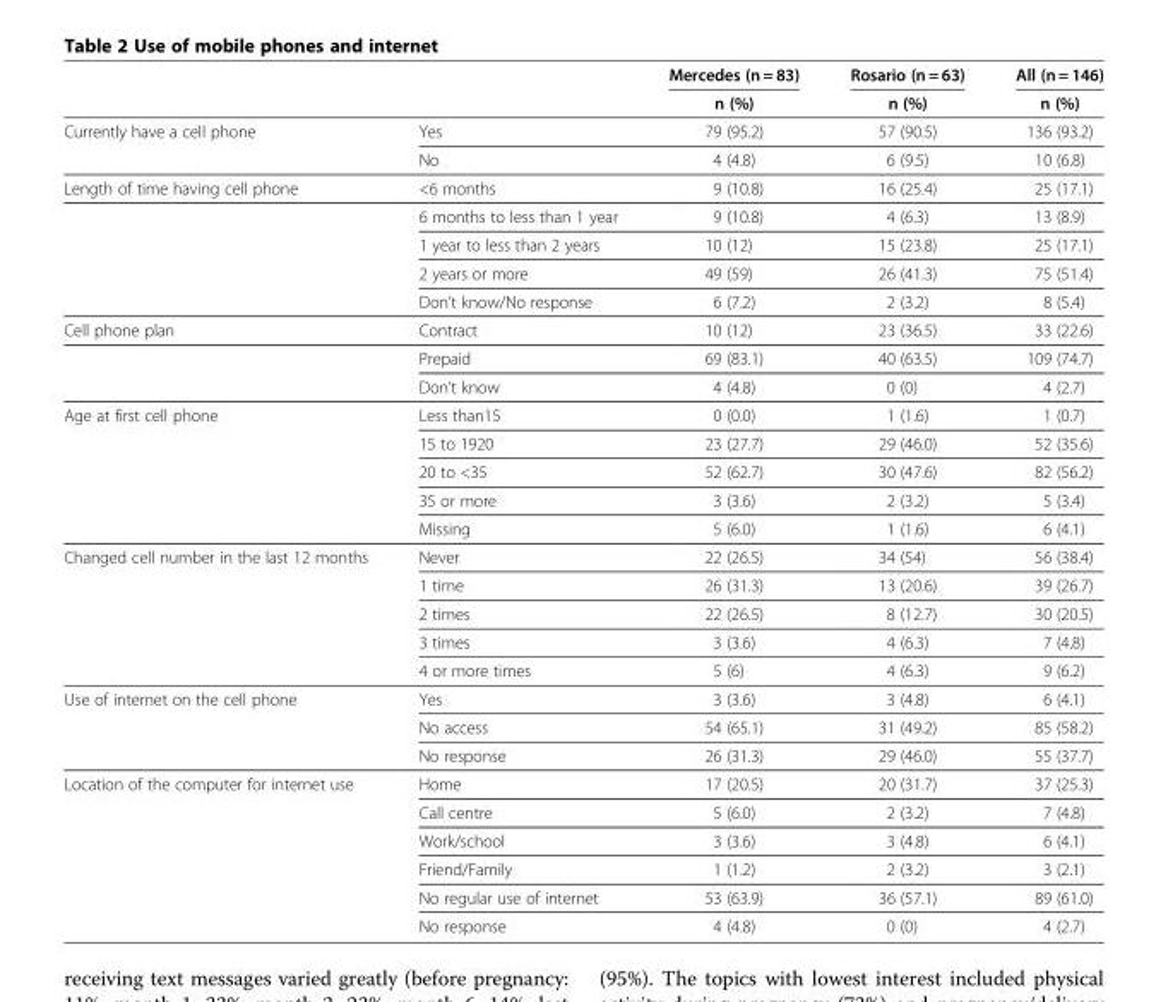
<table><thead><tr><td rowspan="2"></td><td rowspan="2"></td><td rowspan="2">Mercedes (n = 83) n (%)</td><td rowspan="2">Rosario (n = 63) n (%)</td><td rowspan="2">All (n = 146) n (%)</td></tr><tr></tr></thead><tbody><tr><td rowspan="2">Currently have a cell phone</td><td>Yes</td><td>79 (95.2)</td><td>57 (90.5)</td><td>136 (93.2)</td></tr><tr><td>No</td><td>4 (4.8)</td><td>6 (9.5)</td><td>10 (6.8)</td></tr><tr><td rowspan="5">Length of time having cell phone</td><td>&lt;6 months</td><td>9 (10.8)</td><td>16 (25.4)</td><td>25 (17.1)</td></tr><tr><td>6 months to less than 1 year</td><td>9 (10.8)</td><td>4 (6.3)</td><td>13 (8.9)</td></tr><tr><td>1 year to less than 2 years</td><td>10 (12)</td><td>15 (23.8)</td><td>25 (17.1)</td></tr><tr><td>2 years or more</td><td>49 (59)</td><td>26 (41.3)</td><td>75 (51.4)</td></tr><tr><td>Don’t know/No response</td><td>6 (7.2)</td><td>2 (3.2)</td><td>8 (5.4)</td></tr><tr><td rowspan="3">Cell phone plan</td><td>Contract</td><td>10 (12)</td><td>23 (36.5)</td><td>33 (22.6)</td></tr><tr><td>Prepaid</td><td>69 (83.1)</td><td>40 (63.5)</td><td>109 (74.7)</td></tr><tr><td>Don’t know</td><td>4 (4.8)</td><td>0 (0)</td><td>4 (2.7)</td></tr><tr><td rowspan="5">Age at first cell phone</td><td>Less than15</td><td>0 (0.0)</td><td>1 (1.6)</td><td>1 (0.7)</td></tr><tr><td>15 to 1920</td><td>23 (27.7)</td><td>29 (46.0)</td><td>52 (35.6)</td></tr><tr><td>20 to &lt;35</td><td>52 (62.7)</td><td>30 (47.6)</td><td>82 (56.2)</td></tr><tr><td>35 or more</td><td>3 (3.6)</td><td>2 (3.2)</td><td>5 (3.4)</td></tr><tr><td>Missing</td><td>5 (6.0)</td><td>1 (1.6)</td><td>6 (4.1)</td></tr><tr><td rowspan="5">Changed cell number in the last 12 months</td><td>Never</td><td>22 (26.5)</td><td>34 (54)</td><td>56 (38.4)</td></tr><tr><td>1 time</td><td>26 (31.3)</td><td>13 (20.6)</td><td>39 (26.7)</td></tr><tr><td>2 times</td><td>22 (26.5)</td><td>8 (12.7)</td><td>30 (20.5)</td></tr><tr><td>3 times</td><td>3 (3.6)</td><td>4 (6.3)</td><td>7 (4.8)</td></tr><tr><td>4 or more times</td><td>5 (6)</td><td>4 (6.3)</td><td>9 (6.2)</td></tr><tr><td rowspan="3">Use of internet on the cell phone</td><td>Yes</td><td>3 (3.6)</td><td>3 (4.8)</td><td>6 (4.1)</td></tr><tr><td>No access</td><td>54 (65.1)</td><td>31 (49.2)</td><td>85 (58.2)</td></tr><tr><td>No response</td><td>26 (31.3)</td><td>29 (46.0)</td><td>55 (37.7)</td></tr><tr><td rowspan="6">Location of the computer for internet use</td><td>Home</td><td>17 (20.5)</td><td>20 (31.7)</td><td>37 (25.3)</td></tr><tr><td>Call centre</td><td>5 (6.0)</td><td>2 (3.2)</td><td>7 (4.8)</td></tr><tr><td>Work/school</td><td>3 (3.6)</td><td>3 (4.8)</td><td>6 (4.1)</td></tr><tr><td>Friend/Family</td><td>1 (1.2)</td><td>2 (3.2)</td><td>3 (2.1)</td></tr><tr><td>No regular use of internet</td><td>53 (63.9)</td><td>36 (57.1)</td><td>89 (61.0)</td></tr><tr><td>No response</td><td>4 (4.8)</td><td>0 (0)</td><td>4 (2.7)</td></tr></tbody></table>